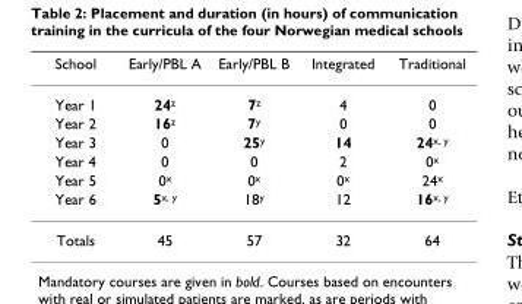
<table><thead><tr><td>School</td><td>Early/PBL A</td><td>Early/PBL B</td><td>Integrated</td><td>Traditional</td></tr></thead><tbody><tr><td>Year 1</td><td>24<sup>z</sup></td><td>7<sup>z</sup></td><td>4</td><td>0</td></tr><tr><td>Year 2</td><td>16<sup>z</sup></td><td>7<sup>y</sup></td><td>0</td><td>0</td></tr><tr><td>Year 3</td><td>0</td><td>25<sup>y</sup></td><td>14</td><td>24<sup>x, y</sup></td></tr><tr><td>Year 4</td><td>0</td><td>0</td><td>2</td><td>0<sup>x</sup></td></tr><tr><td>Year 5</td><td>0<sup>x</sup></td><td>0<sup>x</sup></td><td>0<sup>x</sup></td><td>24<sup>x</sup></td></tr><tr><td>Year 6</td><td>5<sup>x, y</sup></td><td>18<sup>y</sup></td><td>12</td><td>16<sup>x, y</sup></td></tr><tr><td>Totals</td><td>45</td><td>57</td><td>32</td><td>64</td></tr></tbody></table>